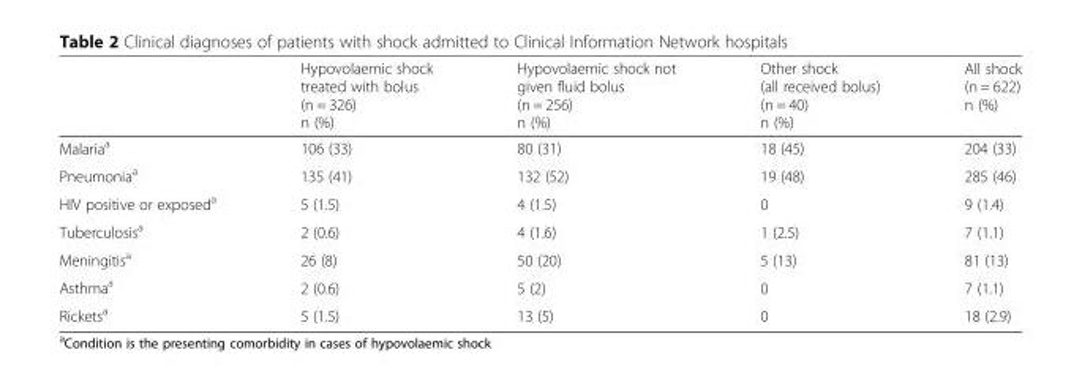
<table><thead><tr><td></td><td>Hypovolaemic shock treated with bolus (n = 326) n (%)</td><td>Hypovolaemic shock not given fluid bolus (n = 256) n (%)</td><td>Other shock (all received bolus) (n = 40) n (%)</td><td>All shock (n = 622) n (%)</td></tr></thead><tbody><tr><td>Malaria<sup>a</sup></td><td>106 (33)</td><td>80 (31)</td><td>18 (45)</td><td>204 (33)</td></tr><tr><td>Pneumonia<sup>a</sup></td><td>135 (41)</td><td>132 (52)</td><td>19 (48)</td><td>285 (46)</td></tr><tr><td>HIV positive or exposed<sup>a</sup></td><td>5 (1.5)</td><td>4 (1.5)</td><td>0</td><td>9 (1.4)</td></tr><tr><td>Tuberculosis<sup>a</sup></td><td>2 (0.6)</td><td>4 (1.6)</td><td>1 (2.5)</td><td>7 (1.1)</td></tr><tr><td>Meningitis<sup>a</sup></td><td>26 (8)</td><td>50 (20)</td><td>5 (13)</td><td>81 (13)</td></tr><tr><td>Asthma<sup>a</sup></td><td>2 (0.6)</td><td>5 (2)</td><td>0</td><td>7 (1.1)</td></tr><tr><td>Rickets<sup>a</sup></td><td>5 (1.5)</td><td>13 (5)</td><td>0</td><td>18 (2.9)</td></tr></tbody></table>